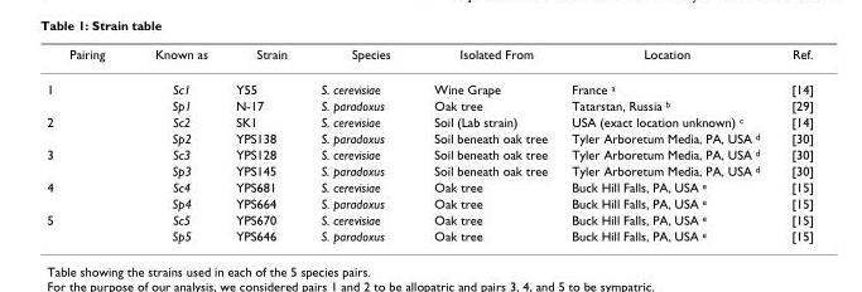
<table><thead><tr><td>Pairing</td><td>Known as</td><td>Strain</td><td>Species</td><td>Isolated From</td><td>Location</td><td>Ref.</td></tr></thead><tbody><tr><td rowspan="2">1</td><td>Sc1</td><td>Y55</td><td>S. cerevisiae</td><td>Wine Grape</td><td>France <sup>a</sup></td><td>[14]</td></tr><tr><td>Sp1</td><td>N-17</td><td>S. paradoxus</td><td>Oak tree</td><td>Tatarstan, Russia <sup>b</sup></td><td>[29]</td></tr><tr><td rowspan="2">2</td><td>Sc2</td><td>SK1</td><td>S. cerevisiae</td><td>Soil (Lab strain)</td><td>USA (exact location unknown) <sup>c</sup></td><td>[14]</td></tr><tr><td>Sp2</td><td>YPS138</td><td>S. paradoxus</td><td>Soil beneath oak tree</td><td>Tyler Arboretum Media, PA, USA <sup>d</sup></td><td>[30]</td></tr><tr><td rowspan="2">3</td><td>Sc3</td><td>YPS128</td><td>S. cerevisiae</td><td>Soil beneath oak tree</td><td>Tyler Arboretum Media, PA, USA <sup>d</sup></td><td>[30]</td></tr><tr><td>Sp3</td><td>YPS145</td><td>S. paradoxus</td><td>Soil beneath oak tree</td><td>Tyler Arboretum Media, PA, USA <sup>d</sup></td><td>[30]</td></tr><tr><td rowspan="2">4</td><td>Sc4</td><td>YPS681</td><td>S. cerevisiae</td><td>Oak tree</td><td>Buck Hill Falls, PA, USA <sup>e</sup></td><td>[15]</td></tr><tr><td>Sp4</td><td>YPS664</td><td>S. paradoxus</td><td>Oak tree</td><td>Buck Hill Falls, PA, USA <sup>e</sup></td><td>[15]</td></tr><tr><td rowspan="2">5</td><td>Sc5</td><td>YPS670</td><td>S. cerevisiae</td><td>Oak tree</td><td>Buck Hill Falls, PA, USA <sup>e</sup></td><td>[15]</td></tr><tr><td>Sp5</td><td>YPS646</td><td>S. paradoxus</td><td>Oak tree</td><td>Buck Hill Falls, PA, USA <sup>e</sup></td><td>[15]</td></tr></tbody></table>